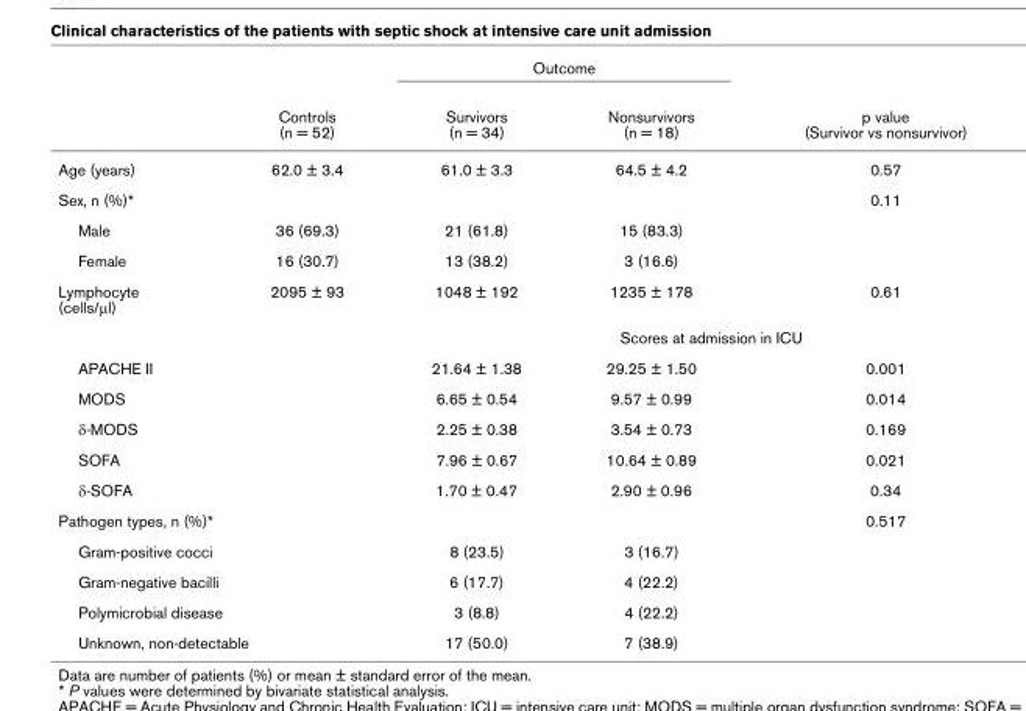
<table><thead><tr><td rowspan="2"></td><td rowspan="2">Controls (n = 52)</td><td colspan="2">Outcome</td><td rowspan="2">p value (Survivor vs nonsurvivor)</td></tr><tr><td>Survivors (n = 34)</td><td>Nonsurvivors (n = 18)</td></tr></thead><tbody><tr><td>Age (years)</td><td>62.0 ± 3.4</td><td>61.0 ± 3.3</td><td>64.5 ± 4.2</td><td>0.57</td></tr><tr><td>Sex, n (%)*</td><td></td><td></td><td></td><td>0.11</td></tr><tr><td>Male</td><td>36 (69.3)</td><td>21 (61.8)</td><td>15 (83.3)</td><td></td></tr><tr><td>Female</td><td>16 (30.7)</td><td>13 (38.2)</td><td>3 (16.6)</td><td></td></tr><tr><td rowspan="2">Lymphocyte (cells/μl)</td><td>2095 ± 93</td><td>1048 ± 192</td><td>1235 ± 178</td><td>0.61</td></tr><tr><td></td><td colspan="3">Scores at admission in ICU</td></tr><tr><td colspan="2">APACHE II</td><td>21.64 ± 1.38</td><td>29.25 ± 1.50</td><td>0.001</td></tr><tr><td colspan="2">MODS</td><td>6.65 ± 0.54</td><td>9.57 ± 0.99</td><td>0.014</td></tr><tr><td colspan="2">δ-MODS</td><td>2.25 ± 0.38</td><td>3.54 ± 0.73</td><td>0.169</td></tr><tr><td colspan="2">SOFA</td><td>7.96 ± 0.67</td><td>10.64 ± 0.89</td><td>0.021</td></tr><tr><td colspan="2">δ-SOFA</td><td>1.70 ± 0.47</td><td>2.90 ± 0.96</td><td>0.34</td></tr><tr><td colspan="2">Pathogen types, n (%)*</td><td></td><td></td><td>0.517</td></tr><tr><td colspan="2">Gram-positive cocci</td><td>8 (23.5)</td><td>3 (16.7)</td><td></td></tr><tr><td colspan="2">Gram-negative bacilli</td><td>6 (17.7)</td><td>4 (22.2)</td><td></td></tr><tr><td colspan="2">Polymicrobial disease</td><td>3 (8.8)</td><td>4 (22.2)</td><td></td></tr><tr><td colspan="2">Unknown, non-detectable</td><td>17 (50.0)</td><td>7 (38.9)</td><td></td></tr></tbody></table>